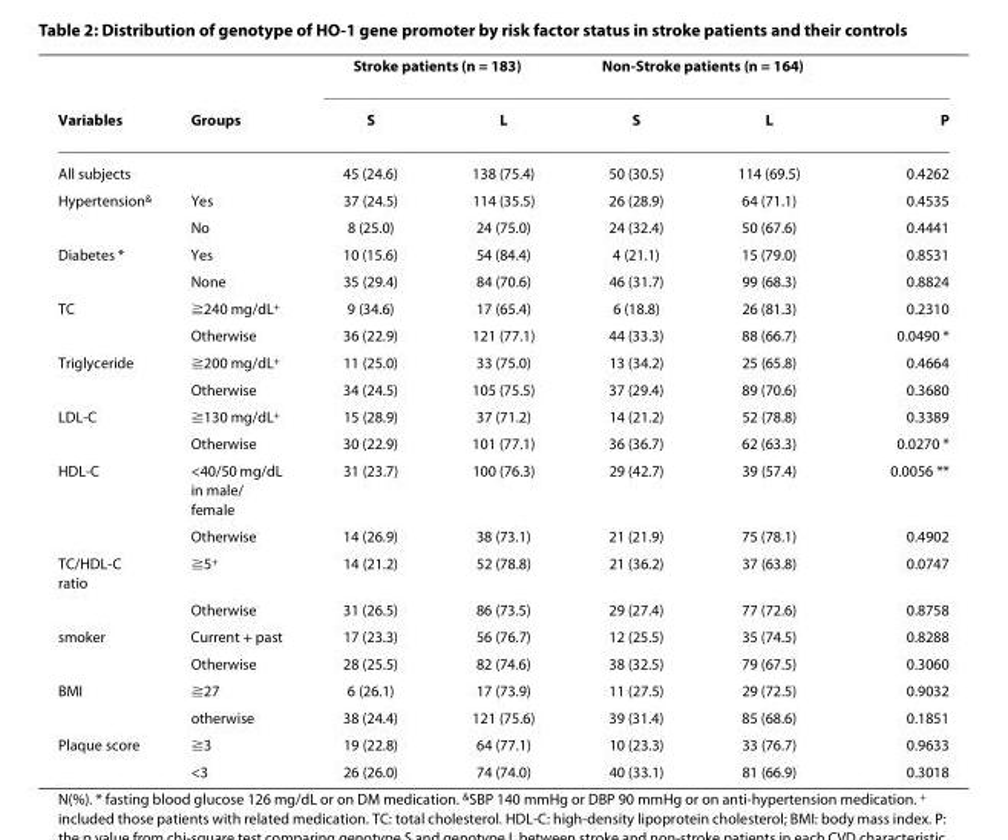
<table><thead><tr><td rowspan="2">Variables</td><td rowspan="2">Groups</td><td colspan="2">Stroke patients (n = 183)</td><td colspan="2">Non-Stroke patients (n = 164)</td><td rowspan="2">P</td></tr><tr><td>S</td><td>L</td><td>S</td><td>L</td></tr></thead><tbody><tr><td>All subjects</td><td></td><td>45 (24.6)</td><td>138 (75.4)</td><td>50 (30.5)</td><td>114 (69.5)</td><td>0.4262</td></tr><tr><td rowspan="2">Hypertension<sup>&amp;</sup></td><td>Yes</td><td>37 (24.5)</td><td>114 (35.5)</td><td>26 (28.9)</td><td>64 (71.1)</td><td>0.4535</td></tr><tr><td>No</td><td>8 (25.0)</td><td>24 (75.0)</td><td>24 (32.4)</td><td>50 (67.6)</td><td>0.4441</td></tr><tr><td rowspan="2">Diabetes *</td><td>Yes</td><td>10 (15.6)</td><td>54 (84.4)</td><td>4 (21.1)</td><td>15 (79.0)</td><td>0.8531</td></tr><tr><td>None</td><td>35 (29.4)</td><td>84 (70.6)</td><td>46 (31.7)</td><td>99 (68.3)</td><td>0.8824</td></tr><tr><td rowspan="2">TC</td><td>≧240 mg/dL<sup>+</sup></td><td>9 (34.6)</td><td>17 (65.4)</td><td>6 (18.8)</td><td>26 (81.3)</td><td>0.2310</td></tr><tr><td>Otherwise</td><td>36 (22.9)</td><td>121 (77.1)</td><td>44 (33.3)</td><td>88 (66.7)</td><td>0.0490 *</td></tr><tr><td rowspan="2">Triglyceride</td><td>≧200 mg/dL<sup>+</sup></td><td>11 (25.0)</td><td>33 (75.0)</td><td>13 (34.2)</td><td>25 (65.8)</td><td>0.4664</td></tr><tr><td>Otherwise</td><td>34 (24.5)</td><td>105 (75.5)</td><td>37 (29.4)</td><td>89 (70.6)</td><td>0.3680</td></tr><tr><td rowspan="2">LDL-C</td><td>≧130 mg/dL<sup>+</sup></td><td>15 (28.9)</td><td>37 (71.2)</td><td>14 (21.2)</td><td>52 (78.8)</td><td>0.3389</td></tr><tr><td>Otherwise</td><td>30 (22.9)</td><td>101 (77.1)</td><td>36 (36.7)</td><td>62 (63.3)</td><td>0.0270 *</td></tr><tr><td rowspan="2">HDL-C</td><td>&lt;40/50 mg/dL in male/ female</td><td>31 (23.7)</td><td>100 (76.3)</td><td>29 (42.7)</td><td>39 (57.4)</td><td>0.0056 **</td></tr><tr><td>Otherwise</td><td>14 (26.9)</td><td>38 (73.1)</td><td>21 (21.9)</td><td>75 (78.1)</td><td>0.4902</td></tr><tr><td rowspan="2">TC/HDL-C ratio</td><td>≧5<sup>+</sup></td><td>14 (21.2)</td><td>52 (78.8)</td><td>21 (36.2)</td><td>37 (63.8)</td><td>0.0747</td></tr><tr><td>Otherwise</td><td>31 (26.5)</td><td>86 (73.5)</td><td>29 (27.4)</td><td>77 (72.6)</td><td>0.8758</td></tr><tr><td rowspan="2">smoker</td><td>Current + past</td><td>17 (23.3)</td><td>56 (76.7)</td><td>12 (25.5)</td><td>35 (74.5)</td><td>0.8288</td></tr><tr><td>Otherwise</td><td>28 (25.5)</td><td>82 (74.6)</td><td>38 (32.5)</td><td>79 (67.5)</td><td>0.3060</td></tr><tr><td rowspan="2">BMI</td><td>≧27</td><td>6 (26.1)</td><td>17 (73.9)</td><td>11 (27.5)</td><td>29 (72.5)</td><td>0.9032</td></tr><tr><td>otherwise</td><td>38 (24.4)</td><td>121 (75.6)</td><td>39 (31.4)</td><td>85 (68.6)</td><td>0.1851</td></tr><tr><td rowspan="2">Plaque score</td><td>≧3</td><td>19 (22.8)</td><td>64 (77.1)</td><td>10 (23.3)</td><td>33 (76.7)</td><td>0.9633</td></tr><tr><td>&lt;3</td><td>26 (26.0)</td><td>74 (74.0)</td><td>40 (33.1)</td><td>81 (66.9)</td><td>0.3018</td></tr></tbody></table>